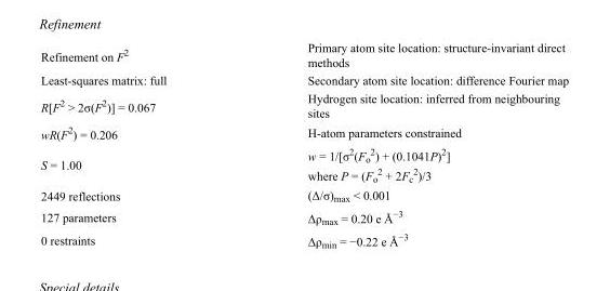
<table><tbody><tr><td>Refinement on F<sup>2</sup></td><td>Primary atom site location: structure-invariant direct methods</td></tr><tr><td>Least-squares matrix: full</td><td>Secondary atom site location: difference Fourier map</td></tr><tr><td>R[F<sup>2</sup> &gt; 2σ(F<sup>2</sup>)] = 0.067</td><td>Hydrogen site location: inferred from neighbouring sites</td></tr><tr><td>wR(F<sup>2</sup>) = 0.206</td><td>H-atom parameters constrained</td></tr><tr><td>S = 1.00</td><td>w = 1/[σ<sup>2</sup>(F<sub>o</sub> <sup>2</sup>) + (0.1041P)<sup>2</sup>] where P = (F<sub>o</sub> <sup>2</sup> + 2F<sub>c</sub> <sup>2</sup>)/3</td></tr><tr><td>2449 reflections</td><td>(Δ/σ)<sub>max</sub> &lt; 0.001</td></tr><tr><td>127 parameters</td><td>Δρ<sub>max</sub> = 0.20 e Å<sup>−3</sup></td></tr><tr><td>0 restraints</td><td>Δρ<sub>min</sub> = −0.22 e Å<sup>−3</sup></td></tr></tbody></table>